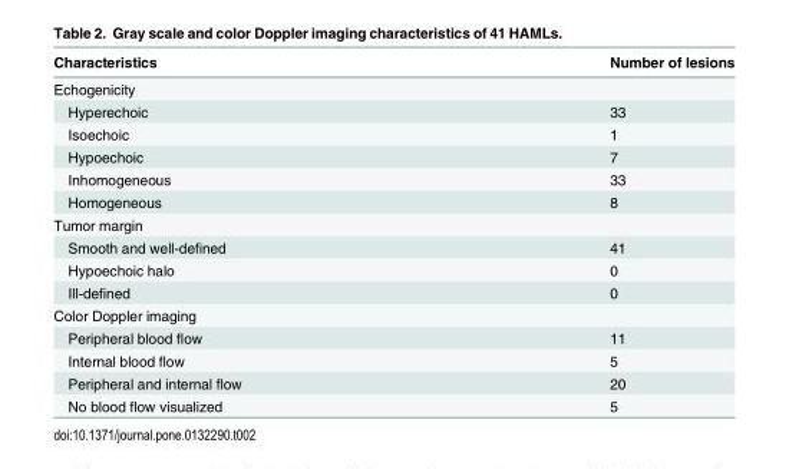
<table><thead><tr><td>Characteristics</td><td>Number of lesions</td></tr></thead><tbody><tr><td colspan="2">Echogenicity</td></tr><tr><td>Hyperechoic</td><td>33</td></tr><tr><td>Isoechoic</td><td>1</td></tr><tr><td>Hypoechoic</td><td>7</td></tr><tr><td>Inhomogeneous</td><td>33</td></tr><tr><td>Homogeneous</td><td>8</td></tr><tr><td colspan="2">Tumor margin</td></tr><tr><td>Smooth and well-defined</td><td>41</td></tr><tr><td>Hypoechoic halo</td><td>0</td></tr><tr><td>Ill-defined</td><td>0</td></tr><tr><td colspan="2">Color Doppler imaging</td></tr><tr><td>Peripheral blood flow</td><td>11</td></tr><tr><td>Internal blood flow</td><td>5</td></tr><tr><td>Peripheral and internal flow</td><td>20</td></tr><tr><td>No blood flow visualized</td><td>5</td></tr></tbody></table>